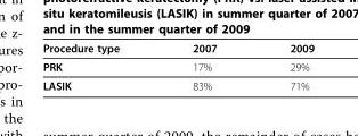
<table><thead><tr><td>Procedure type</td><td>2007</td><td>2009</td></tr></thead><tbody><tr><td>PRK</td><td>17%</td><td>29%</td></tr><tr><td>LASIK</td><td>83%</td><td>71%</td></tr></tbody></table>